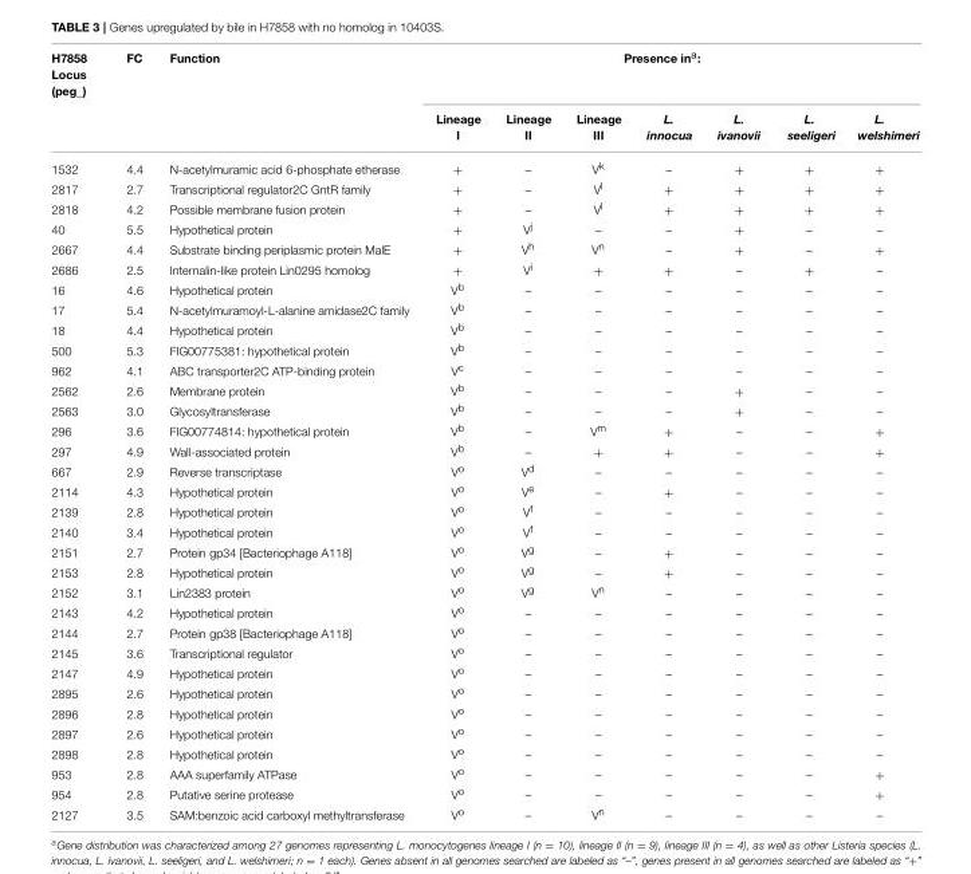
<table><thead><tr><td rowspan="2">H7858 Locus (peg_)</td><td rowspan="2">FC</td><td rowspan="2">Function</td><td colspan="7">Presence in<sup>a</sup>:</td></tr><tr><td>Lineage I</td><td>Lineage II</td><td>Lineage III</td><td>L. innocua</td><td>L. ivanovii</td><td>L. seeligeri</td><td>L. welshimeri</td></tr></thead><tbody><tr><td>1532</td><td>4.4</td><td>N-acetylmuramic acid 6-phosphate etherase</td><td>+</td><td>–</td><td>V<sup>k</sup></td><td>–</td><td>+</td><td>+</td><td>+</td></tr><tr><td>2817</td><td>2.7</td><td>Transcriptional regulator2C GntR family</td><td>+</td><td>–</td><td>V<sup>l</sup></td><td>+</td><td>+</td><td>+</td><td>+</td></tr><tr><td>2818</td><td>4.2</td><td>Possible membrane fusion protein</td><td>+</td><td>–</td><td>V<sup>l</sup></td><td>+</td><td>+</td><td>+</td><td>+</td></tr><tr><td>40</td><td>5.5</td><td>Hypothetical protein</td><td>+</td><td>V<sup>j</sup></td><td>–</td><td>–</td><td>+</td><td>–</td><td>–</td></tr><tr><td>2667</td><td>4.4</td><td>Substrate binding periplasmic protein MalE</td><td>+</td><td>V<sup>h</sup></td><td>V<sup>n</sup></td><td>–</td><td>+</td><td>–</td><td>+</td></tr><tr><td>2686</td><td>2.5</td><td>Internalin-like protein Lin0295 homolog</td><td>+</td><td>V<sup>i</sup></td><td>+</td><td>+</td><td>–</td><td>+</td><td>–</td></tr><tr><td>16</td><td>4.6</td><td>Hypothetical protein</td><td>V<sup>b</sup></td><td>–</td><td>–</td><td>–</td><td>–</td><td>–</td><td>–</td></tr><tr><td>17</td><td>5.4</td><td>N-acetylmuramoyl-L-alanine amidase2C family</td><td>V<sup>b</sup></td><td>–</td><td>–</td><td>–</td><td>–</td><td>–</td><td>–</td></tr><tr><td>18</td><td>4.4</td><td>Hypothetical protein</td><td>V<sup>b</sup></td><td>–</td><td>–</td><td>–</td><td>–</td><td>–</td><td>–</td></tr><tr><td>500</td><td>5.3</td><td>FIG00775381: hypothetical protein</td><td>V<sup>b</sup></td><td>–</td><td>–</td><td>–</td><td>–</td><td>–</td><td>–</td></tr><tr><td>962</td><td>4.1</td><td>ABC transporter2C ATP-binding protein</td><td>V<sup>c</sup></td><td>–</td><td>–</td><td>–</td><td>–</td><td>–</td><td>–</td></tr><tr><td>2562</td><td>2.6</td><td>Membrane protein</td><td>V<sup>b</sup></td><td>–</td><td>–</td><td>–</td><td>+</td><td>–</td><td>–</td></tr><tr><td>2563</td><td>3.0</td><td>Glycosyltransferase</td><td>V<sup>b</sup></td><td>–</td><td>–</td><td>–</td><td>+</td><td>–</td><td>–</td></tr><tr><td>296</td><td>3.6</td><td>FIG00774814: hypothetical protein</td><td>V<sup>b</sup></td><td>–</td><td>V<sup>m</sup></td><td>+</td><td>–</td><td>–</td><td>+</td></tr><tr><td>297</td><td>4.9</td><td>Wall-associated protein</td><td>V<sup>b</sup></td><td>–</td><td>+</td><td>+</td><td>–</td><td>–</td><td>+</td></tr><tr><td>667</td><td>2.9</td><td>Reverse transcriptase</td><td>V<sup>o</sup></td><td>V<sup>d</sup></td><td>–</td><td>–</td><td>–</td><td>–</td><td>–</td></tr><tr><td>2114</td><td>4.3</td><td>Hypothetical protein</td><td>V<sup>o</sup></td><td>V<sup>e</sup></td><td>–</td><td>+</td><td>–</td><td>–</td><td>–</td></tr><tr><td>2139</td><td>2.8</td><td>Hypothetical protein</td><td>V<sup>o</sup></td><td>V<sup>f</sup></td><td>–</td><td>–</td><td>–</td><td>–</td><td>–</td></tr><tr><td>2140</td><td>3.4</td><td>Hypothetical protein</td><td>V<sup>o</sup></td><td>V<sup>f</sup></td><td>–</td><td>–</td><td>–</td><td>–</td><td>–</td></tr><tr><td>2151</td><td>2.7</td><td>Protein gp34 [Bacteriophage A118]</td><td>V<sup>o</sup></td><td>V<sup>g</sup></td><td>–</td><td>+</td><td>–</td><td>–</td><td>–</td></tr><tr><td>2153</td><td>2.8</td><td>Hypothetical protein</td><td>V<sup>o</sup></td><td>V<sup>g</sup></td><td>–</td><td>+</td><td>–</td><td>–</td><td>–</td></tr><tr><td>2152</td><td>3.1</td><td>Lin2383 protein</td><td>V<sup>o</sup></td><td>V<sup>g</sup></td><td>V<sup>n</sup></td><td>–</td><td>–</td><td>–</td><td>–</td></tr><tr><td>2143</td><td>4.2</td><td>Hypothetical protein</td><td>V<sup>o</sup></td><td>–</td><td>–</td><td>–</td><td>–</td><td>–</td><td>–</td></tr><tr><td>2144</td><td>2.7</td><td>Protein gp38 [Bacteriophage A118]</td><td>V<sup>o</sup></td><td>–</td><td>–</td><td>–</td><td>–</td><td>–</td><td>–</td></tr><tr><td>2145</td><td>3.6</td><td>Transcriptional regulator</td><td>V<sup>o</sup></td><td>–</td><td>–</td><td>–</td><td>–</td><td>–</td><td>–</td></tr><tr><td>2147</td><td>4.9</td><td>Hypothetical protein</td><td>V<sup>o</sup></td><td>–</td><td>–</td><td>–</td><td>–</td><td>–</td><td>–</td></tr><tr><td>2895</td><td>2.6</td><td>Hypothetical protein</td><td>V<sup>o</sup></td><td>–</td><td>–</td><td>–</td><td>–</td><td>–</td><td>–</td></tr><tr><td>2896</td><td>2.8</td><td>Hypothetical protein</td><td>V<sup>o</sup></td><td>–</td><td>–</td><td>–</td><td>–</td><td>–</td><td>–</td></tr><tr><td>2897</td><td>2.6</td><td>Hypothetical protein</td><td>V<sup>o</sup></td><td>–</td><td>–</td><td>–</td><td>–</td><td>–</td><td>–</td></tr><tr><td>2898</td><td>2.8</td><td>Hypothetical protein</td><td>V<sup>o</sup></td><td>–</td><td>–</td><td>–</td><td>–</td><td>–</td><td>–</td></tr><tr><td>953</td><td>2.8</td><td>AAA superfamily ATPase</td><td>V<sup>o</sup></td><td>–</td><td>–</td><td>–</td><td>–</td><td>–</td><td>+</td></tr><tr><td>954</td><td>2.8</td><td>Putative serine protease</td><td>V<sup>o</sup></td><td>–</td><td>–</td><td>–</td><td>–</td><td>–</td><td>+</td></tr><tr><td>2127</td><td>3.5</td><td>SAM:benzoic acid carboxyl methyltransferase</td><td>V<sup>o</sup></td><td>–</td><td>V<sup>n</sup></td><td>–</td><td>–</td><td>–</td><td>–</td></tr></tbody></table>